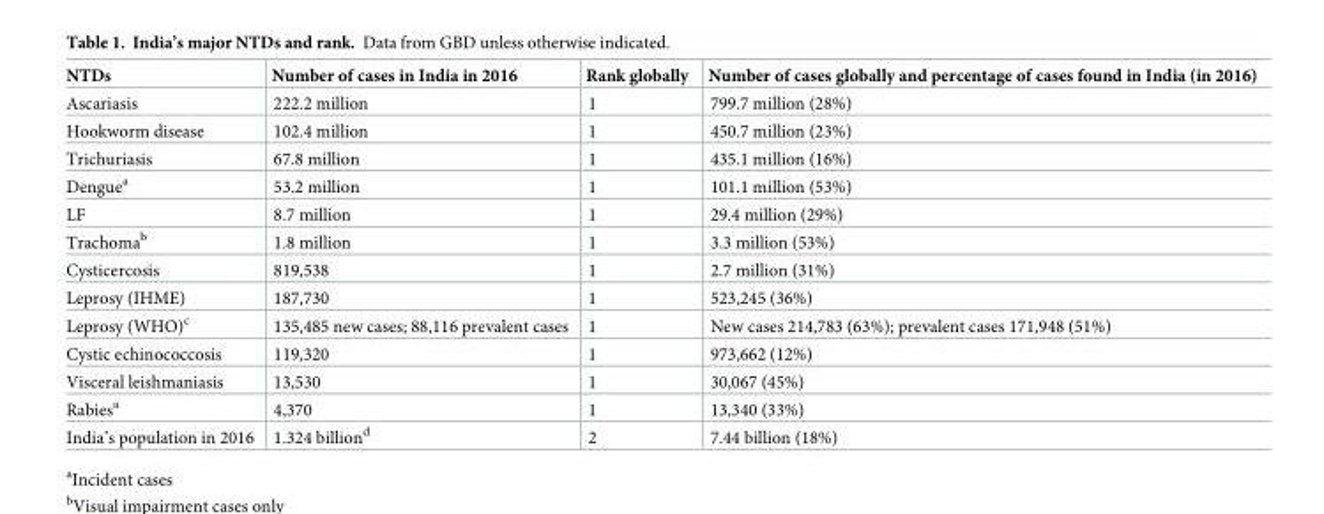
<table><thead><tr><td>NTDs</td><td>Number of cases in India in 2016</td><td>Rank globally</td><td>Number of cases globally and percentage of cases found in India (in 2016)</td></tr></thead><tbody><tr><td>Ascariasis</td><td>222.2 million</td><td>1</td><td>799.7 million (28%)</td></tr><tr><td>Hookworm disease</td><td>102.4 million</td><td>1</td><td>450.7 million (23%)</td></tr><tr><td>Trichuriasis</td><td>67.8 million</td><td>1</td><td>435.1 million (16%)</td></tr><tr><td>Dengue<sup>a</sup></td><td>53.2 million</td><td>1</td><td>101.1 million (53%)</td></tr><tr><td>LF</td><td>8.7 million</td><td>1</td><td>29.4 million (29%)</td></tr><tr><td>Trachoma<sup>b</sup></td><td>1.8 million</td><td>1</td><td>3.3 million (53%)</td></tr><tr><td>Cysticercosis</td><td>819,538</td><td>1</td><td>2.7 million (31%)</td></tr><tr><td>Leprosy (IHME)</td><td>187,730</td><td>1</td><td>523,245 (36%)</td></tr><tr><td>Leprosy (WHO)<sup>c</sup></td><td>135,485 new cases; 88,116 prevalent cases</td><td>1</td><td>New cases 214,783 (63%); prevalent cases 171,948 (51%)</td></tr><tr><td>Cystic echinococcosis</td><td>119,320</td><td>1</td><td>973,662 (12%)</td></tr><tr><td>Visceral leishmaniasis</td><td>13,530</td><td>1</td><td>30,067 (45%)</td></tr><tr><td>Rabies<sup>a</sup></td><td>4,370</td><td>1</td><td>13,340 (33%)</td></tr><tr><td>India’s population in 2016</td><td>1.324 billion<sup>d</sup></td><td>2</td><td>7.44 billion (18%)</td></tr></tbody></table>